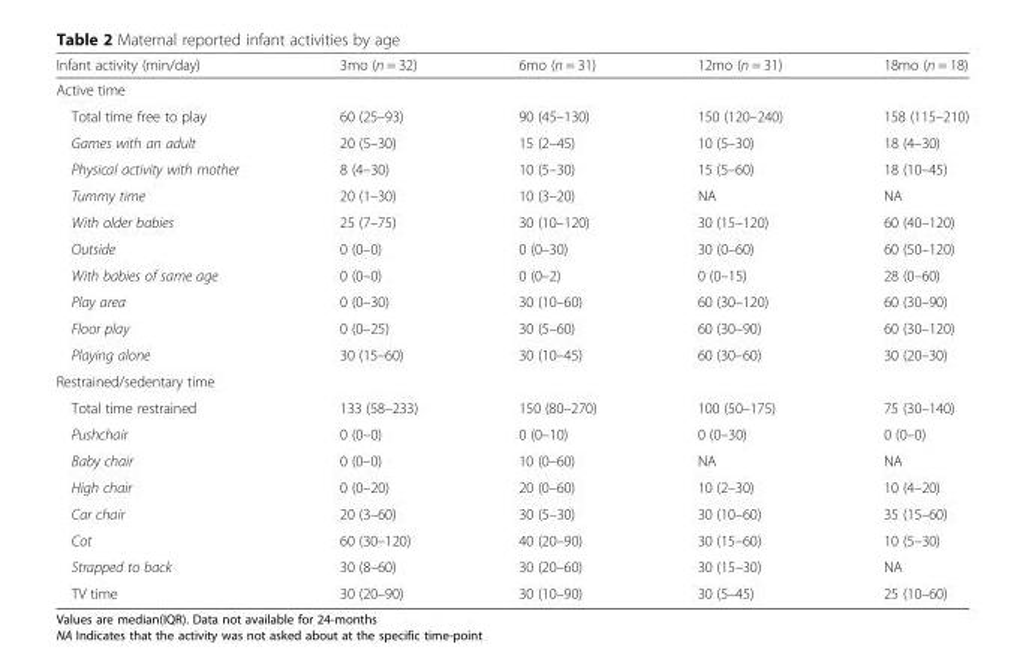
<table><thead><tr><td>Infant activity (min/day)</td><td>3mo (n = 32)</td><td>6mo (n = 31)</td><td>12mo (n = 31)</td><td>18mo (n = 18)</td></tr></thead><tbody><tr><td colspan="5">Active time</td></tr><tr><td>Total time free to play</td><td>60 (25–93)</td><td>90 (45–130)</td><td>150 (120–240)</td><td>158 (115–210)</td></tr><tr><td>Games with an adult</td><td>20 (5–30)</td><td>15 (2–45)</td><td>10 (5–30)</td><td>18 (4–30)</td></tr><tr><td>Physical activity with mother</td><td>8 (4–30)</td><td>10 (5–30)</td><td>15 (5–60)</td><td>18 (10–45)</td></tr><tr><td>Tummy time</td><td>20 (1–30)</td><td>10 (3–20)</td><td>NA</td><td>NA</td></tr><tr><td>With older babies</td><td>25 (7–75)</td><td>30 (10–120)</td><td>30 (15–120)</td><td>60 (40–120)</td></tr><tr><td>Outside</td><td>0 (0–0)</td><td>0 (0–30)</td><td>30 (0–60)</td><td>60 (50–120)</td></tr><tr><td>With babies of same age</td><td>0 (0–0)</td><td>0 (0–2)</td><td>0 (0–15)</td><td>28 (0–60)</td></tr><tr><td>Play area</td><td>0 (0–30)</td><td>30 (10–60)</td><td>60 (30–120)</td><td>60 (30–90)</td></tr><tr><td>Floor play</td><td>0 (0–25)</td><td>30 (5–60)</td><td>60 (30–90)</td><td>60 (30–120)</td></tr><tr><td>Playing alone</td><td>30 (15–60)</td><td>30 (10–45)</td><td>60 (30–60)</td><td>30 (20–30)</td></tr><tr><td colspan="5">Restrained/sedentary time</td></tr><tr><td>Total time restrained</td><td>133 (58–233)</td><td>150 (80–270)</td><td>100 (50–175)</td><td>75 (30–140)</td></tr><tr><td>Pushchair</td><td>0 (0–0)</td><td>0 (0–10)</td><td>0 (0–30)</td><td>0 (0–0)</td></tr><tr><td>Baby chair</td><td>0 (0–0)</td><td>10 (0–60)</td><td>NA</td><td>NA</td></tr><tr><td>High chair</td><td>0 (0–20)</td><td>20 (0–60)</td><td>10 (2–30)</td><td>10 (4–20)</td></tr><tr><td>Car chair</td><td>20 (3–60)</td><td>30 (5–30)</td><td>30 (10–60)</td><td>35 (15–60)</td></tr><tr><td>Cot</td><td>60 (30–120)</td><td>40 (20–90)</td><td>30 (15–60)</td><td>10 (5–30)</td></tr><tr><td>Strapped to back</td><td>30 (8–60)</td><td>30 (20–60)</td><td>30 (15–30)</td><td>NA</td></tr><tr><td>TV time</td><td>30 (20–90)</td><td>30 (10–90)</td><td>30 (5–45)</td><td>25 (10–60)</td></tr></tbody></table>